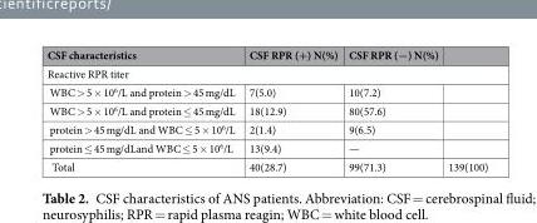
<table><thead><tr><td>CSF characteristics</td><td>CSF RPR (+) N(%)</td><td>CSF RPR (−) N(%)</td><td></td></tr></thead><tbody><tr><td colspan="4">Reactive RPR titer</td></tr><tr><td>WBC &gt; 5 × 10<sup>6</sup>/L and protein &gt; 45 mg/dL</td><td>7(5.0)</td><td>10(7.2)</td><td></td></tr><tr><td>WBC &gt; 5 × 10<sup>6</sup>/L and protein ≤ 45 mg/dL</td><td>18(12.9)</td><td>80(57.6)</td><td></td></tr><tr><td>protein &gt; 45 mg/dL and WBC ≤ 5 × 10<sup>6</sup>/L</td><td>2(1.4)</td><td>9(6.5)</td><td></td></tr><tr><td>protein ≤ 45 mg/dLand WBC ≤ 5 × 10<sup>6</sup>/L</td><td>13(9.4)</td><td>—</td><td></td></tr><tr><td>Total</td><td>40(28.7)</td><td>99(71.3)</td><td>139(100)</td></tr></tbody></table>